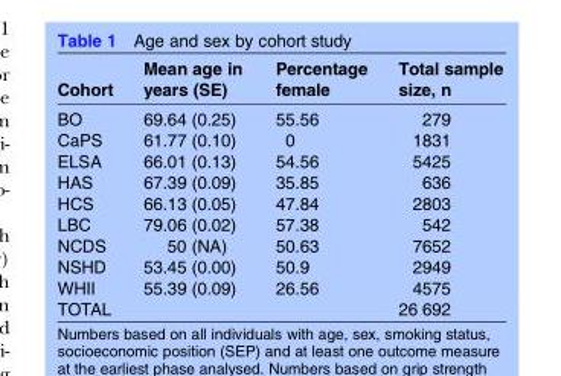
<table><thead><tr><td>Cohort</td><td>Mean age in years (SE)</td><td>Percentage female</td><td>Total sample size, n</td></tr></thead><tbody><tr><td>BO</td><td>69.64 (0.25)</td><td>55.56</td><td>279</td></tr><tr><td>CaPS</td><td>61.77 (0.10)</td><td>0</td><td>1831</td></tr><tr><td>ELSA</td><td>66.01 (0.13)</td><td>54.56</td><td>5425</td></tr><tr><td>HAS</td><td>67.39 (0.09)</td><td>35.85</td><td>636</td></tr><tr><td>HCS</td><td>66.13 (0.05)</td><td>47.84</td><td>2803</td></tr><tr><td>LBC</td><td>79.06 (0.02)</td><td>57.38</td><td>542</td></tr><tr><td>NCDS</td><td>50 (NA)</td><td>50.63</td><td>7652</td></tr><tr><td>NSHD</td><td>53.45 (0.00)</td><td>50.9</td><td>2949</td></tr><tr><td>WHII</td><td>55.39 (0.09)</td><td>26.56</td><td>4575</td></tr><tr><td>TOTAL</td><td></td><td></td><td>26 692</td></tr></tbody></table>